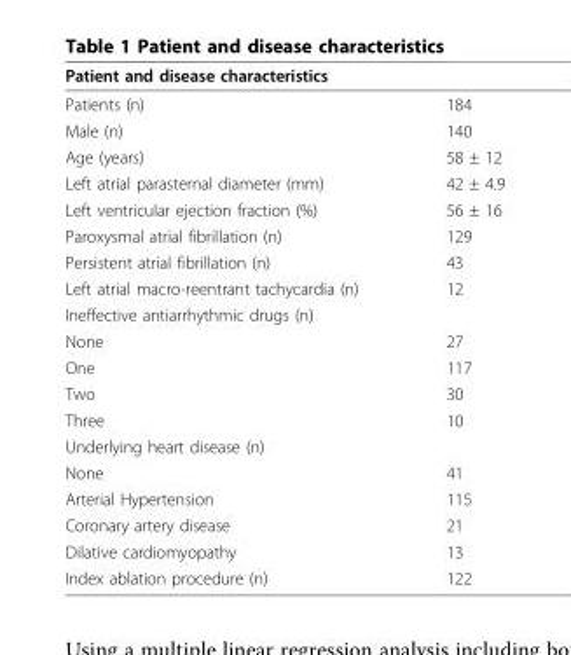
<table><thead><tr><td colspan="2">Patient and disease characteristics</td></tr><tr><td>Patients (n)</td><td>184</td></tr></thead><tbody><tr><td>Male (n)</td><td>140</td></tr><tr><td>Age (years)</td><td>58 ± 12</td></tr><tr><td>Left atrial parasternal diameter (mm)</td><td>42 ± 4.9</td></tr><tr><td>Left ventricular ejection fraction (%)</td><td>56 ± 16</td></tr><tr><td>Paroxysmal atrial fibrillation (n)</td><td>129</td></tr><tr><td>Persistent atrial fibrillation (n)</td><td>43</td></tr><tr><td>Left atrial macro-reentrant tachycardia (n)</td><td>12</td></tr><tr><td colspan="2">Ineffective antiarrhythmic drugs (n)</td></tr><tr><td>None</td><td>27</td></tr><tr><td>One</td><td>117</td></tr><tr><td>Two</td><td>30</td></tr><tr><td>Three</td><td>10</td></tr><tr><td colspan="2">Underlying heart disease (n)</td></tr><tr><td>None</td><td>41</td></tr><tr><td>Arterial Hypertension</td><td>115</td></tr><tr><td>Coronary artery disease</td><td>21</td></tr><tr><td>Dilative cardiomyopathy</td><td>13</td></tr><tr><td>Index ablation procedure (n)</td><td>122</td></tr></tbody></table>